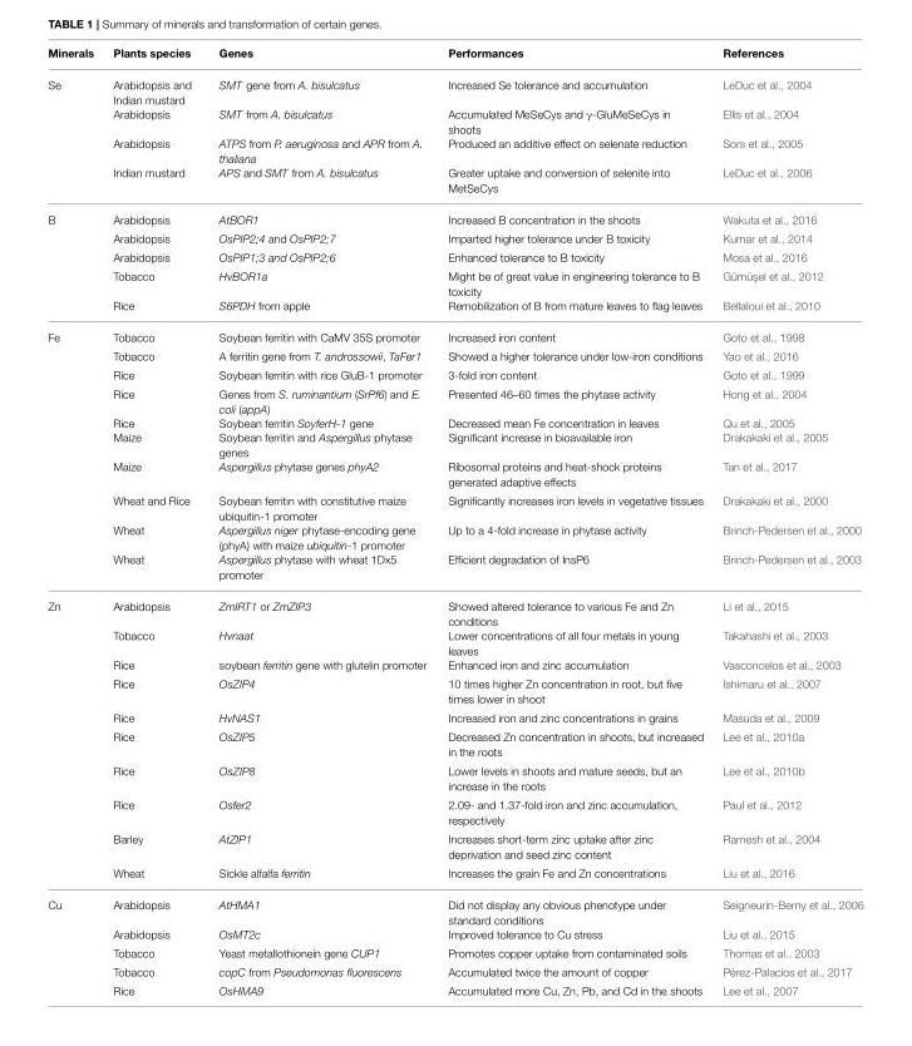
<table><thead><tr><td>Minerals</td><td>Plants species</td><td>Genes</td><td>Performances</td><td>References</td></tr></thead><tbody><tr><td rowspan="4">Se</td><td>Arabidopsis and Indian mustard</td><td>SMT gene from A. bisulcatus</td><td>Increased Se tolerance and accumulation</td><td>LeDuc et al., 2004</td></tr><tr><td>Arabidopsis</td><td>SMT from A. bisulcatus</td><td>Accumulated MeSeCys and γ-GluMeSeCys in shoots</td><td>Ellis et al., 2004</td></tr><tr><td>Arabidopsis</td><td>ATPS from P. aeruginosa and APR from A. thaliana</td><td>Produced an additive effect on selenate reduction</td><td>Sors et al., 2005</td></tr><tr><td>Indian mustard</td><td>APS and SMT from A. bisulcatus</td><td>Greater uptake and conversion of selenite into MetSeCys</td><td>LeDuc et al., 2006</td></tr><tr><td rowspan="5">B</td><td>Arabidopsis</td><td>AtBOR1</td><td>Increased B concentration in the shoots</td><td>Wakuta et al., 2016</td></tr><tr><td>Arabidopsis</td><td>OsPIP2;4 and OsPIP2;7</td><td>Imparted higher tolerance under B toxicity</td><td>Kumar et al., 2014</td></tr><tr><td>Arabidopsis</td><td>OsPIP1;3 and OsPIP2;6</td><td>Enhanced tolerance to B toxicity</td><td>Mosa et al., 2016</td></tr><tr><td>Tobacco</td><td>HvBOR1a</td><td>Might be of great value in engineering tolerance to B toxicity</td><td>Gümü¸sel et al., 2012</td></tr><tr><td>Rice</td><td>S6PDH from apple</td><td>Remobilization of B from mature leaves to flag leaves</td><td>Bellaloui et al., 2010</td></tr><tr><td rowspan="10">Fe</td><td>Tobacco</td><td>Soybean ferritin with CaMV 35S promoter</td><td>Increased iron content</td><td>Goto et al., 1998</td></tr><tr><td>Tobacco</td><td>A ferritin gene from T. androssowii, TaFer1</td><td>Showed a higher tolerance under low-iron conditions</td><td>Yao et al., 2016</td></tr><tr><td>Rice</td><td>Soybean ferritin with rice GluB-1 promoter</td><td>3-fold iron content</td><td>Goto et al., 1999</td></tr><tr><td>Rice</td><td>Genes from S. ruminantium (SrPf6) and E. coli (appA)</td><td>Presented 46–60 times the phytase activity</td><td>Hong et al., 2004</td></tr><tr><td>Rice</td><td>Soybean ferritin SoyferH-1 gene</td><td>Decreased mean Fe concentration in leaves</td><td>Qu et al., 2005</td></tr><tr><td>Maize</td><td>Soybean ferritin and Aspergillus phytase genes</td><td>Significant increase in bioavailable iron</td><td>Drakakaki et al., 2005</td></tr><tr><td>Maize</td><td>Aspergillus phytase genes phyA2</td><td>Ribosomal proteins and heat-shock proteins generated adaptive effects</td><td>Tan et al., 2017</td></tr><tr><td>Wheat and Rice</td><td>Soybean ferritin with constitutive maize ubiquitin-1 promoter</td><td>Significantly increases iron levels in vegetative tissues</td><td>Drakakaki et al., 2000</td></tr><tr><td>Wheat</td><td>Aspergillus niger phytase-encoding gene (phyA) with maize ubiquitin-1 promoter</td><td>Up to a 4-fold increase in phytase activity</td><td>Brinch-Pedersen et al., 2000</td></tr><tr><td>Wheat</td><td>Aspergillus phytase with wheat 1Dx5 promoter</td><td>Efficient degradation of InsP6</td><td>Brinch-Pedersen et al., 2003</td></tr><tr><td rowspan="10">Zn</td><td>Arabidopsis</td><td>ZmIRT1 or ZmZIP3</td><td>Showed altered tolerance to various Fe and Zn conditions</td><td>Li et al., 2015</td></tr><tr><td>Tobacco</td><td>Hvnaat</td><td>Lower concentrations of all four metals in young leaves</td><td>Takahashi et al., 2003</td></tr><tr><td>Rice</td><td>soybean ferritin gene with glutelin promoter</td><td>Enhanced iron and zinc accumulation</td><td>Vasconcelos et al., 2003</td></tr><tr><td>Rice</td><td>OsZIP4</td><td>10 times higher Zn concentration in root, but five times lower in shoot</td><td>Ishimaru et al., 2007</td></tr><tr><td>Rice</td><td>HvNAS1</td><td>Increased iron and zinc concentrations in grains</td><td>Masuda et al., 2009</td></tr><tr><td>Rice</td><td>OsZIP5</td><td>Decreased Zn concentration in shoots, but increased in the roots</td><td>Lee et al., 2010a</td></tr><tr><td>Rice</td><td>OsZIP8</td><td>Lower levels in shoots and mature seeds, but an increase in the roots</td><td>Lee et al., 2010b</td></tr><tr><td>Rice</td><td>Osfer2</td><td>2.09- and 1.37-fold iron and zinc accumulation, respectively</td><td>Paul et al., 2012</td></tr><tr><td>Barley</td><td>AtZIP1</td><td>Increases short-term zinc uptake after zinc deprivation and seed zinc content</td><td>Ramesh et al., 2004</td></tr><tr><td>Wheat</td><td>Sickle alfalfa ferritin</td><td>Increases the grain Fe and Zn concentrations</td><td>Liu et al., 2016</td></tr><tr><td rowspan="5">Cu</td><td>Arabidopsis</td><td>AtHMA1</td><td>Did not display any obvious phenotype under standard conditions</td><td>Seigneurin-Berny et al., 2006</td></tr><tr><td>Arabidopsis</td><td>OsMT2c</td><td>Improved tolerance to Cu stress</td><td>Liu et al., 2015</td></tr><tr><td>Tobacco</td><td>Yeast metallothionein gene CUP1</td><td>Promotes copper uptake from contaminated soils</td><td>Thomas et al., 2003</td></tr><tr><td>Tobacco</td><td>copC from Pseudomonas fluorescens</td><td>Accumulated twice the amount of copper</td><td>Pérez-Palacios et al., 2017</td></tr><tr><td>Rice</td><td>OsHMA9</td><td>Accumulated more Cu, Zn, Pb, and Cd in the shoots</td><td>Lee et al., 2007</td></tr></tbody></table>